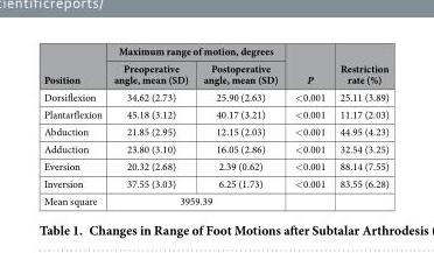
<table><thead><tr><td rowspan="2">Position</td><td colspan="2">Maximum range of motion, degrees</td><td rowspan="2">P</td><td rowspan="2">Restriction rate (%)</td></tr><tr><td>Preoperative angle, mean (SD)</td><td>Postoperative angle, mean (SD)</td></tr></thead><tbody><tr><td>Dorsiflexion</td><td>34.62 (2.73)</td><td>25.90 (2.63)</td><td>&lt; 0.001</td><td>25.11 (3.89)</td></tr><tr><td>Plantarflexion</td><td>45.18 (3.12)</td><td>40.17 (3.21)</td><td>&lt; 0.001</td><td>11.17 (2.03)</td></tr><tr><td>Abduction</td><td>21.85 (2.95)</td><td>12.15 (2.03)</td><td>&lt; 0.001</td><td>44.95 (4.23)</td></tr><tr><td>Adduction</td><td>23.80 (3.10)</td><td>16.05 (2.86)</td><td>&lt; 0.001</td><td>32.54 (3.25)</td></tr><tr><td>Eversion</td><td>20.32 (2.68)</td><td>2.39 (0.62)</td><td>&lt; 0.001</td><td>88.14 (7.55)</td></tr><tr><td>Inversion</td><td>37.55 (3.03)</td><td>6.25 (1.73)</td><td>&lt; 0.001</td><td>83.55 (6.28)</td></tr><tr><td>Mean square</td><td colspan="2">3959.39</td><td></td><td></td></tr></tbody></table>